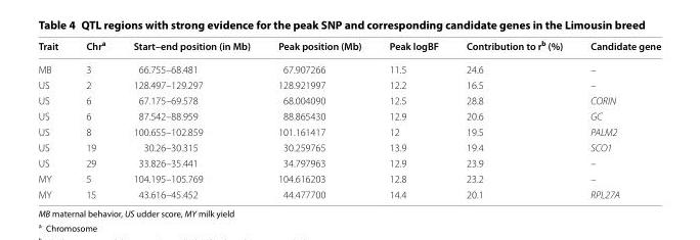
<table><thead><tr><td>Trait</td><td>Chr<sup>a</sup></td><td>Start–end position (in Mb)</td><td>Peak position (Mb)</td><td>Peak logBF</td><td>Contribution to r<sup>b</sup> (%)</td><td>Candidate gene</td></tr></thead><tbody><tr><td>MB</td><td>3</td><td>66.755–68.481</td><td>67.907266</td><td>11.5</td><td>24.6</td><td>–</td></tr><tr><td>US</td><td>2</td><td>128.497–129.297</td><td>128.921997</td><td>12.2</td><td>16.5</td><td>–</td></tr><tr><td>US</td><td>6</td><td>67.175–69.578</td><td>68.004090</td><td>12.5</td><td>28.8</td><td>CORIN</td></tr><tr><td>US</td><td>6</td><td>87.542–88.959</td><td>88.865430</td><td>12.9</td><td>20.6</td><td>GC</td></tr><tr><td>US</td><td>8</td><td>100.655–102.859</td><td>101.161417</td><td>12</td><td>19.5</td><td>PALM2</td></tr><tr><td>US</td><td>19</td><td>30.26–30.315</td><td>30.259765</td><td>13.9</td><td>19.4</td><td>SCO1</td></tr><tr><td>US</td><td>29</td><td>33.826–35.441</td><td>34.797963</td><td>12.9</td><td>23.9</td><td>–</td></tr><tr><td>MY</td><td>5</td><td>104.195–105.769</td><td>104.616203</td><td>12.8</td><td>23.2</td><td>–</td></tr><tr><td>MY</td><td>15</td><td>43.616–45.452</td><td>44.477700</td><td>14.4</td><td>20.1</td><td>RPL27A</td></tr></tbody></table>